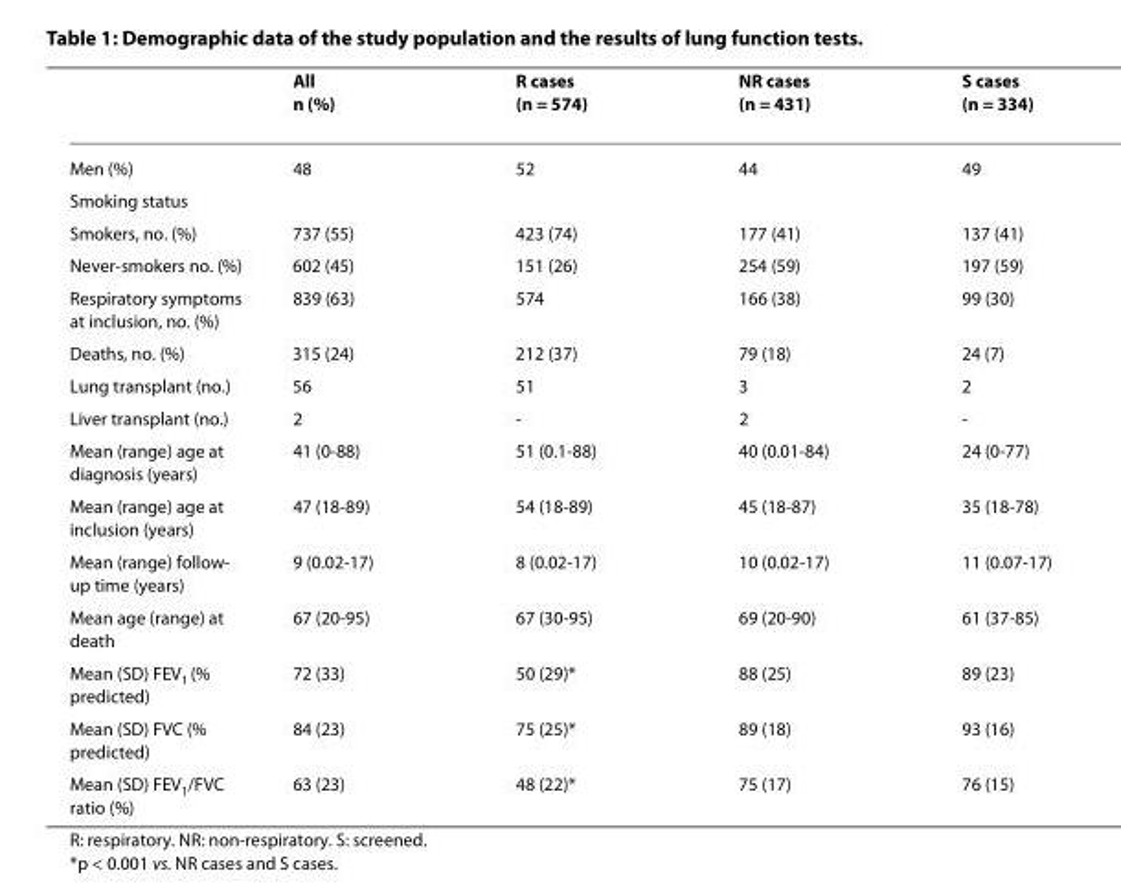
<table><thead><tr><td></td><td>All n (%)</td><td>R cases (n = 574)</td><td>NR cases (n = 431)</td><td>S cases (n = 334)</td></tr></thead><tbody><tr><td>Men (%)</td><td>48</td><td>52</td><td>44</td><td>49</td></tr><tr><td colspan="5">Smoking status</td></tr><tr><td>Smokers, no. (%)</td><td>737 (55)</td><td>423 (74)</td><td>177 (41)</td><td>137 (41)</td></tr><tr><td>Never-smokers no. (%)</td><td>602 (45)</td><td>151 (26)</td><td>254 (59)</td><td>197 (59)</td></tr><tr><td>Respiratory symptoms at inclusion, no. (%)</td><td>839 (63)</td><td>574</td><td>166 (38)</td><td>99 (30)</td></tr><tr><td>Deaths, no. (%)</td><td>315 (24)</td><td>212 (37)</td><td>79 (18)</td><td>24 (7)</td></tr><tr><td>Lung transplant (no.)</td><td>56</td><td>51</td><td>3</td><td>2</td></tr><tr><td>Liver transplant (no.)</td><td>2</td><td>-</td><td>2</td><td>-</td></tr><tr><td>Mean (range) age at diagnosis (years)</td><td>41 (0-88)</td><td>51 (0.1-88)</td><td>40 (0.01-84)</td><td>24 (0-77)</td></tr><tr><td>Mean (range) age at inclusion (years)</td><td>47 (18-89)</td><td>54 (18-89)</td><td>45 (18-87)</td><td>35 (18-78)</td></tr><tr><td>Mean (range) follow- up time (years)</td><td>9 (0.02-17)</td><td>8 (0.02-17)</td><td>10 (0.02-17)</td><td>11 (0.07-17)</td></tr><tr><td>Mean age (range) at death</td><td>67 (20-95)</td><td>67 (30-95)</td><td>69 (20-90)</td><td>61 (37-85)</td></tr><tr><td>Mean (SD) FEV<sub>1</sub> (% predicted)</td><td>72 (33)</td><td>50 (29)*</td><td>88 (25)</td><td>89 (23)</td></tr><tr><td>Mean (SD) FVC (% predicted)</td><td>84 (23)</td><td>75 (25)*</td><td>89 (18)</td><td>93 (16)</td></tr><tr><td>Mean (SD) FEV<sub>1</sub>/FVC ratio (%)</td><td>63 (23)</td><td>48 (22)*</td><td>75 (17)</td><td>76 (15)</td></tr></tbody></table>